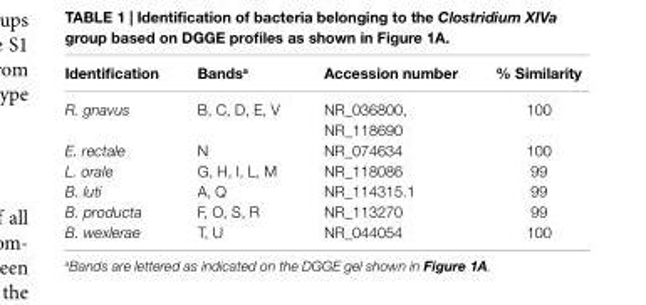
<table><thead><tr><td>identification</td><td>Bands<sup>a</sup></td><td>accession number</td><td>% similarity</td></tr></thead><tbody><tr><td>R. gnavus</td><td>B, C, D, E, V</td><td>NR_036800, NR_118690</td><td>100</td></tr><tr><td>E. rectale</td><td>N</td><td>NR_074634</td><td>100</td></tr><tr><td>L. orale</td><td>G, H, I, L, M</td><td>NR_118086</td><td>99</td></tr><tr><td>B. luti</td><td>A, Q</td><td>NR_114315.1</td><td>99</td></tr><tr><td>B. producta</td><td>F, O, S, R</td><td>NR_113270</td><td>99</td></tr><tr><td>B. wexlerae</td><td>T, U</td><td>NR_044054</td><td>100</td></tr></tbody></table>